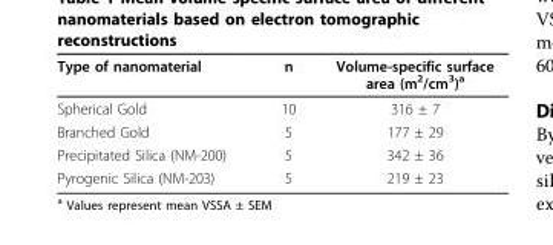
<table><thead><tr><td>Type of nanomaterial</td><td>n</td><td>Volume-specific surface area (m<sup>2</sup>/cm<sup>3</sup>)<sup>a</sup></td></tr></thead><tbody><tr><td>Spherical Gold</td><td>10</td><td>316 ± 7</td></tr><tr><td>Branched Gold</td><td>5</td><td>177 ± 29</td></tr><tr><td>Precipitated Silica (NM-200)</td><td>5</td><td>342 ± 36</td></tr><tr><td>Pyrogenic Silica (NM-203)</td><td>5</td><td>219 ± 23</td></tr></tbody></table>